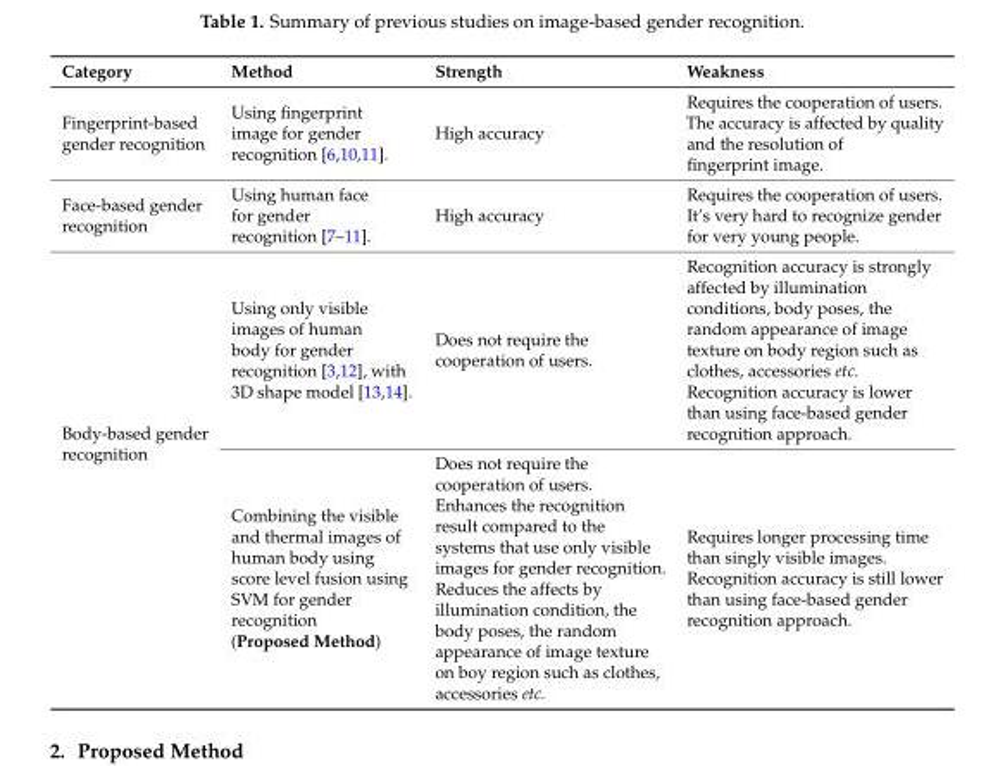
<table><thead><tr><td>Category</td><td>Method</td><td>Strength</td><td>Weakness</td></tr></thead><tbody><tr><td>Fingerprint-based gender recognition</td><td>Using fingerprint image for gender recognition [6,10,11].</td><td>High accuracy</td><td>Requires the cooperation of users. The accuracy is affected by quality and the resolution of fingerprint image.</td></tr><tr><td>Face-based gender recognition</td><td>Using human face for gender recognition [7–11].</td><td>High accuracy</td><td>Requires the cooperation of users. It’s very hard to recognize gender for very young people.</td></tr><tr><td rowspan="2">Body-based gender recognition</td><td>Using only visible images of human body for gender recognition [3,12], with 3D shape model [13,14].</td><td>Does not require the cooperation of users.</td><td>Recognition accuracy is strongly affected by illumination conditions, body poses, the random appearance of image texture on body region such as clothes, accessories etc. Recognition accuracy is lower than using face-based gender recognition approach.</td></tr><tr><td>Combining the visible and thermal images of human body using score level fusion using SVM for gender recognition (Proposed Method)</td><td>Does not require the cooperation of users. Enhances the recognition result compared to the systems that use only visible images for gender recognition. Reduces the affects by illumination condition, the body poses, the random appearance of image texture on boy region such as clothes, accessories etc.</td><td>Requires longer processing time than singly visible images. Recognition accuracy is still lower than using face-based gender recognition approach.</td></tr></tbody></table>